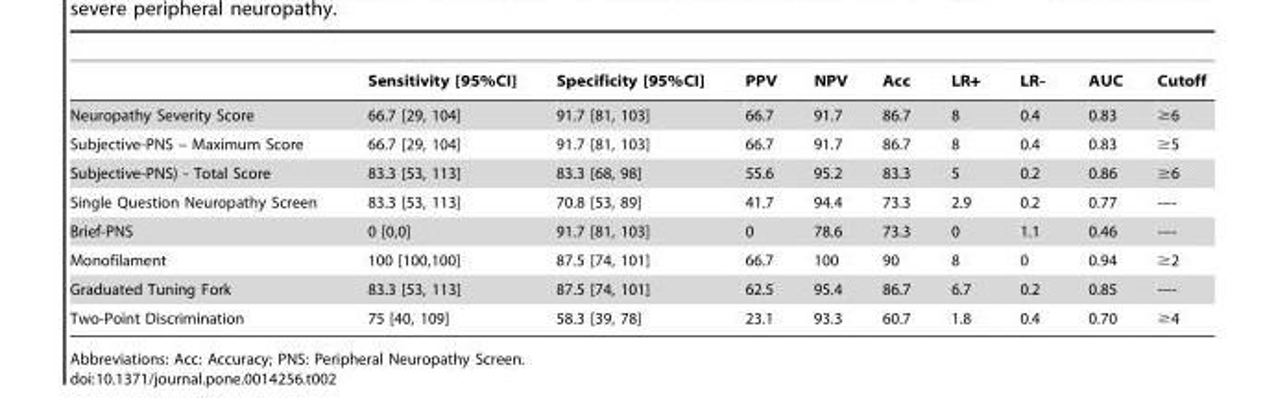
<table><thead><tr><td></td><td>Sensitivity [95%CI]</td><td>Specificity [95%CI]</td><td>PPV</td><td>NPV</td><td>Acc</td><td>LR+</td><td>LR-</td><td>AUC</td><td>Cutoff</td></tr></thead><tbody><tr><td>Neuropathy Severity Score</td><td>66.7 [29, 104]</td><td>91.7 [81, 103]</td><td>66.7</td><td>91.7</td><td>86.7</td><td>8</td><td>0.4</td><td>0.83</td><td>≥6</td></tr><tr><td>Subjective-PNS – Maximum Score</td><td>66.7 [29, 104]</td><td>91.7 [81, 103]</td><td>66.7</td><td>91.7</td><td>86.7</td><td>8</td><td>0.4</td><td>0.83</td><td>≥5</td></tr><tr><td>Subjective-PNS) - Total Score</td><td>83.3 [53, 113]</td><td>83.3 [68, 98]</td><td>55.6</td><td>95.2</td><td>83.3</td><td>5</td><td>0.2</td><td>0.86</td><td>≥6</td></tr><tr><td>Single Question Neuropathy Screen</td><td>83.3 [53, 113]</td><td>70.8 [53, 89]</td><td>41.7</td><td>94.4</td><td>73.3</td><td>2.9</td><td>0.2</td><td>0.77</td><td>----</td></tr><tr><td>Brief-PNS</td><td>0 [0,0]</td><td>91.7 [81, 103]</td><td>0</td><td>78.6</td><td>73.3</td><td>0</td><td>1.1</td><td>0.46</td><td>----</td></tr><tr><td>Monofilament</td><td>100 [100,100]</td><td>87.5 [74, 101]</td><td>66.7</td><td>100</td><td>90</td><td>8</td><td>0</td><td>0.94</td><td>≥2</td></tr><tr><td>Graduated Tuning Fork</td><td>83.3 [53, 113]</td><td>87.5 [74, 101]</td><td>62.5</td><td>95.4</td><td>86.7</td><td>6.7</td><td>0.2</td><td>0.85</td><td>----</td></tr><tr><td>Two-Point Discrimination</td><td>75 [40, 109]</td><td>58.3 [39, 78]</td><td>23.1</td><td>93.3</td><td>60.7</td><td>1.8</td><td>0.4</td><td>0.70</td><td>≥4</td></tr></tbody></table>